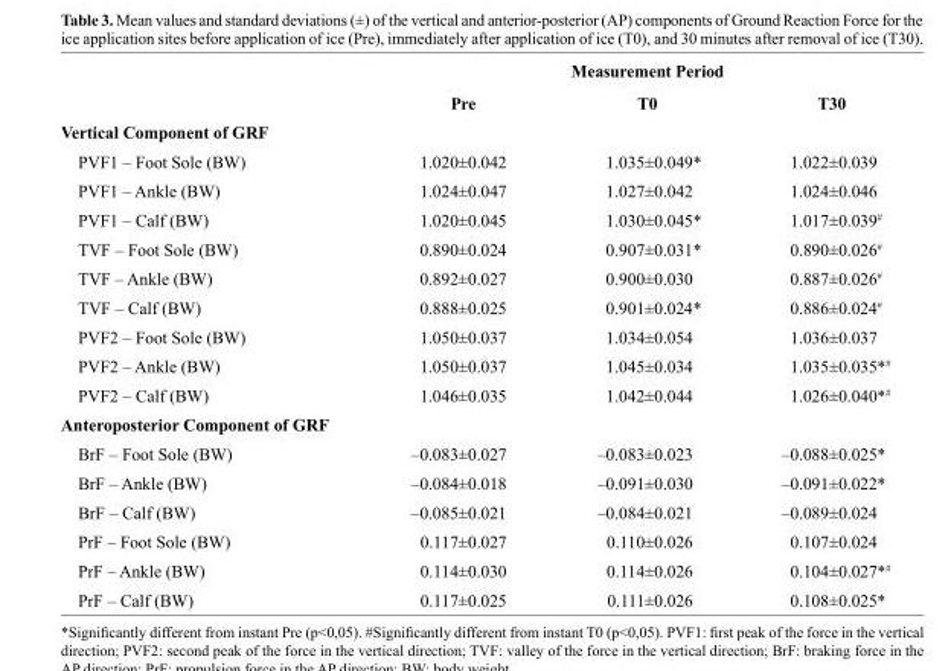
<table><thead><tr><td rowspan="2"></td><td colspan="3">Measurement Period</td></tr><tr><td>Pre</td><td>T0</td><td>T30</td></tr></thead><tbody><tr><td colspan="4">Vertical Component of GRF</td></tr><tr><td>PVF1 – Foot Sole (BW)</td><td>1.020±0.042</td><td>1.035±0.049*</td><td>1.022±0.039</td></tr><tr><td>PVF1 – Ankle (BW)</td><td>1.024±0.047</td><td>1.027±0.042</td><td>1.024±0.046</td></tr><tr><td>PVF1 – Calf (BW)</td><td>1.020±0.045</td><td>1.030±0.045*</td><td>1.017±0.039<sup>#</sup></td></tr><tr><td>TVF – Foot Sole (BW)</td><td>0.890±0.024</td><td>0.907±0.031*</td><td>0.890±0.026<sup>#</sup></td></tr><tr><td>TVF – Ankle (BW)</td><td>0.892±0.027</td><td>0.900±0.030</td><td>0.887±0.026<sup>#</sup></td></tr><tr><td>TVF – Calf (BW)</td><td>0.888±0.025</td><td>0.901±0.024*</td><td>0.886±0.024<sup>#</sup></td></tr><tr><td>PVF2 – Foot Sole (BW)</td><td>1.050±0.037</td><td>1.034±0.054</td><td>1.036±0.037</td></tr><tr><td>PVF2 – Ankle (BW)</td><td>1.050±0.037</td><td>1.045±0.034</td><td>1.035±0.035*<sup>#</sup></td></tr><tr><td>PVF2 – Calf (BW)</td><td>1.046±0.035</td><td>1.042±0.044</td><td>1.026±0.040*<sup>#</sup></td></tr><tr><td colspan="4">Anteroposterior Component of GRF</td></tr><tr><td>BrF – Foot Sole (BW)</td><td>–0.083±0.027</td><td>–0.083±0.023</td><td>–0.088±0.025*</td></tr><tr><td>BrF – Ankle (BW)</td><td>–0.084±0.018</td><td>–0.091±0.030</td><td>–0.091±0.022*</td></tr><tr><td>BrF – Calf (BW)</td><td>–0.085±0.021</td><td>–0.084±0.021</td><td>–0.089±0.024</td></tr><tr><td>PrF – Foot Sole (BW)</td><td>0.117±0.027</td><td>0.110±0.026</td><td>0.107±0.024</td></tr><tr><td>PrF – Ankle (BW)</td><td>0.114±0.030</td><td>0.114±0.026</td><td>0.104±0.027*<sup>#</sup></td></tr><tr><td>PrF – Calf (BW)</td><td>0.117±0.025</td><td>0.111±0.026</td><td>0.108±0.025*</td></tr></tbody></table>